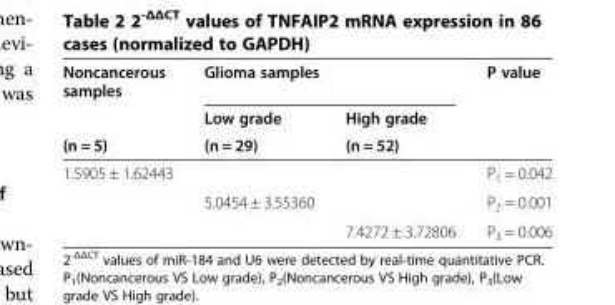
<table><thead><tr><td rowspan="3">Noncancerous samples (n = 5)</td><td colspan="2">Glioma samples</td><td rowspan="3">P value</td></tr><tr><td rowspan="2">Low grade (n = 29)</td><td rowspan="2">High grade (n = 52)</td></tr><tr></tr></thead><tbody><tr><td rowspan="3">1.5905 ± 1.62443</td><td></td><td></td><td>P<sub>1</sub> = 0.042</td></tr><tr><td>5.0454 ± 3.55360</td><td></td><td>P<sub>2</sub> = 0.001</td></tr><tr><td></td><td>7.4272 ± 3.72806</td><td>P<sub>3</sub> = 0.006</td></tr></tbody></table>